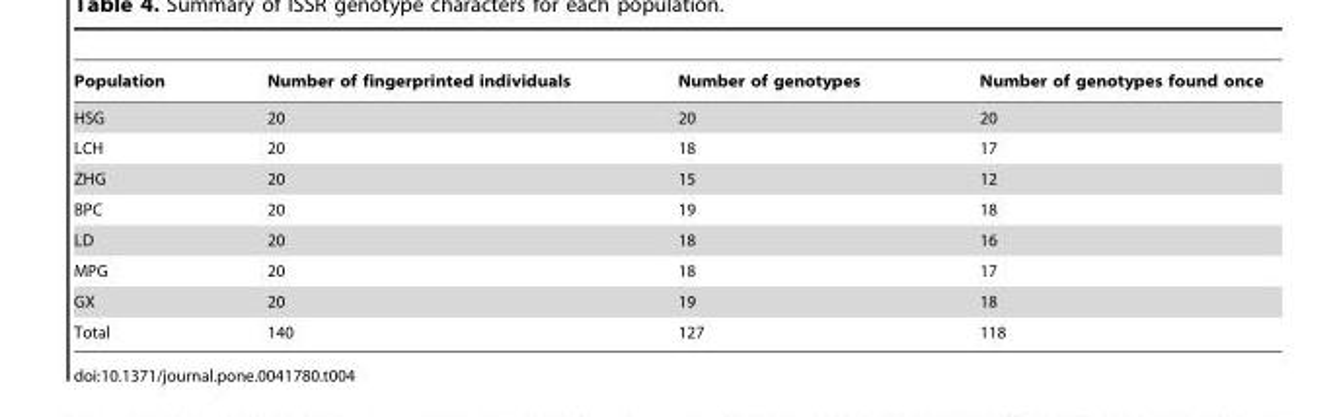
<table><thead><tr><td>Population</td><td>Number of fingerprinted individuals</td><td>Number of genotypes</td><td>Number of genotypes found once</td></tr></thead><tbody><tr><td>HSG</td><td>20</td><td>20</td><td>20</td></tr><tr><td>LCH</td><td>20</td><td>18</td><td>17</td></tr><tr><td>ZHG</td><td>20</td><td>15</td><td>12</td></tr><tr><td>BPC</td><td>20</td><td>19</td><td>18</td></tr><tr><td>LD</td><td>20</td><td>18</td><td>16</td></tr><tr><td>MPG</td><td>20</td><td>18</td><td>17</td></tr><tr><td>GX</td><td>20</td><td>19</td><td>18</td></tr><tr><td>Total</td><td>140</td><td>127</td><td>118</td></tr></tbody></table>